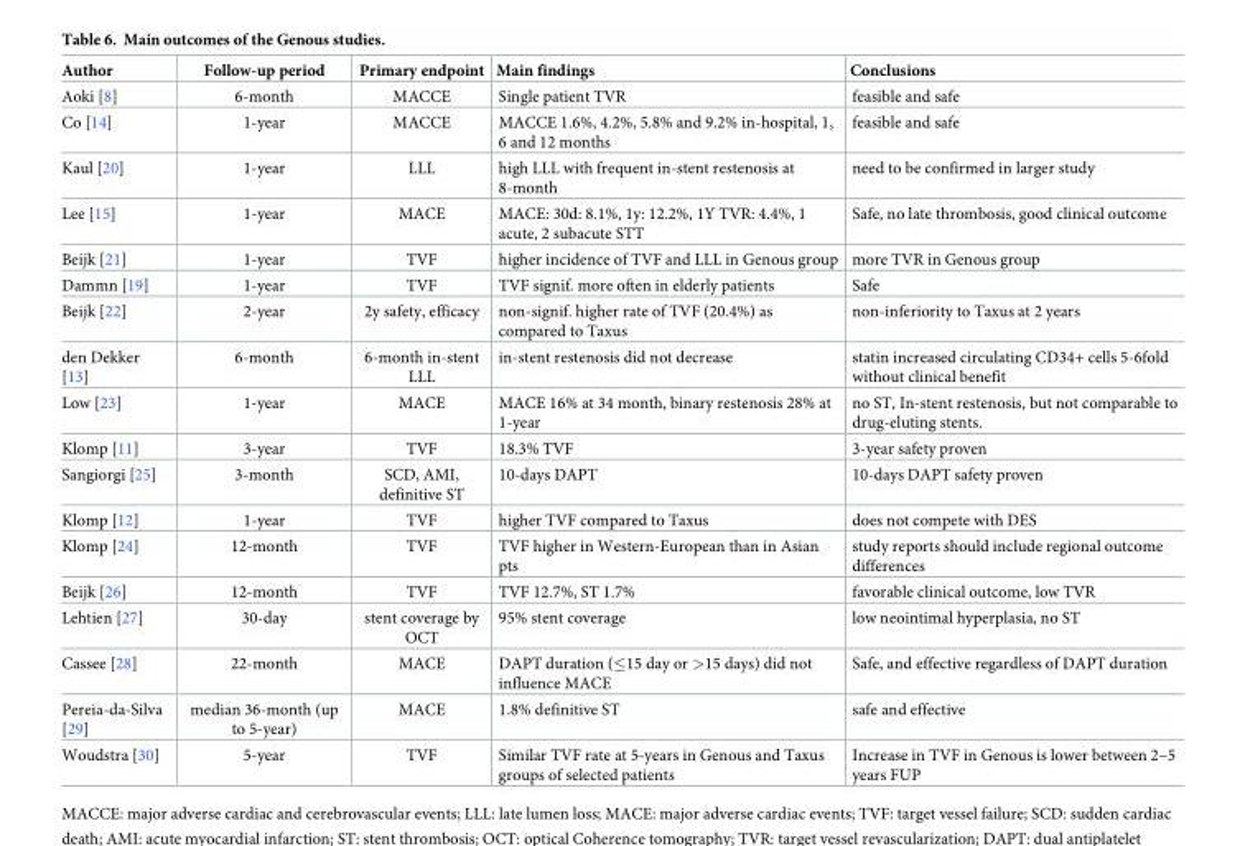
<table><thead><tr><td>Author</td><td>Follow-up period</td><td>Primary endpoint</td><td>Main findings</td><td>Conclusions</td></tr></thead><tbody><tr><td>Aoki [8]</td><td>6-month</td><td>MACCE</td><td>Single patient TVR</td><td>feasible and safe</td></tr><tr><td>Co [14]</td><td>1-year</td><td>MACCE</td><td>MACCE 1.6%, 4.2%, 5.8% and 9.2% in-hospital, 1, 6 and 12 months</td><td>feasible and safe</td></tr><tr><td>Kaul [20]</td><td>1-year</td><td>LLL</td><td>high LLL with frequent in-stent restenosis at 8-month</td><td>need to be confirmed in larger study</td></tr><tr><td>Lee [15]</td><td>1-year</td><td>MACE</td><td>MACE: 30d: 8.1%, 1y: 12.2%, 1Y TVR: 4.4%, 1 acute, 2 subacute STT</td><td>Safe, no late thrombosis, good clinical outcome</td></tr><tr><td>Beijk [21]</td><td>1-year</td><td>TVF</td><td>higher incidence of TVF and LLL in Genous group</td><td>more TVR in Genous group</td></tr><tr><td>Dammn [19]</td><td>1-year</td><td>TVF</td><td>TVF signif. more often in elderly patients</td><td>Safe</td></tr><tr><td>Beijk [22]</td><td>2-year</td><td>2y safety, efficacy</td><td>non-signif. higher rate of TVF (20.4%) as compared to Taxus</td><td>non-inferiority to Taxus at 2 years</td></tr><tr><td>den Dekker [13]</td><td>6-month</td><td>6-month in-stent LLL</td><td>in-stent restenosis did not decrease</td><td>statin increased circulating CD34+ cells 5-6fold without clinical benefit</td></tr><tr><td>Low [23]</td><td>1-year</td><td>MACE</td><td>MACE 16% at 34 month, binary restenosis 28% at 1-year</td><td>no ST, In-stent restenosis, but not comparable to drug-eluting stents.</td></tr><tr><td>Klomp [11]</td><td>3-year</td><td>TVF</td><td>18.3% TVF</td><td>3-year safety proven</td></tr><tr><td>Sangiorgi [25]</td><td>3-month</td><td>SCD, AMI, definitive ST</td><td>10-days DAPT</td><td>10-days DAPT safety proven</td></tr><tr><td>Klomp [12]</td><td>1-year</td><td>TVF</td><td>higher TVF compared to Taxus</td><td>does not compete with DES</td></tr><tr><td>Klomp [24]</td><td>12-month</td><td>TVF</td><td>TVF higher in Western-European than in Asian pts</td><td>study reports should include regional outcome differences</td></tr><tr><td>Beijk [26]</td><td>12-month</td><td>TVF</td><td>TVF 12.7%, ST 1.7%</td><td>favorable clinical outcome, low TVR</td></tr><tr><td>Lehtien [27]</td><td>30-day</td><td>stent coverage by OCT</td><td>95% stent coverage</td><td>low neointimal hyperplasia, no ST</td></tr><tr><td>Cassee [28]</td><td>22-month</td><td>MACE</td><td>DAPT duration (≤15 day or &gt;15 days) did not influence MACE</td><td>Safe, and effective regardless of DAPT duration</td></tr><tr><td>Pereia-da-Silva [29]</td><td>median 36-month (up to 5-year)</td><td>MACE</td><td>1.8% definitive ST</td><td>safe and effective</td></tr><tr><td>Woudstra [30]</td><td>5-year</td><td>TVF</td><td>Similar TVF rate at 5-years in Genous and Taxus groups of selected patients</td><td>Increase in TVF in Genous is lower between 2–5 years FUP</td></tr></tbody></table>